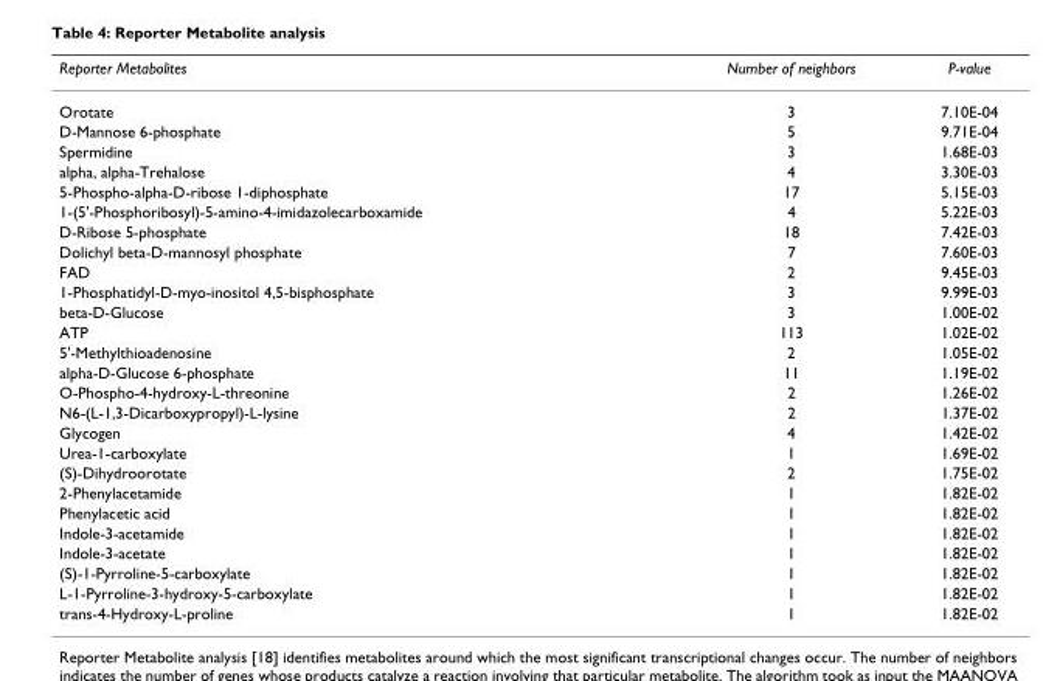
<table><thead><tr><td>Reporter Metabolites</td><td>Number of neighbors</td><td>P-value</td></tr></thead><tbody><tr><td>Orotate</td><td>3</td><td>7.10E-04</td></tr><tr><td>D-Mannose 6-phosphate</td><td>5</td><td>9.71E-04</td></tr><tr><td>Spermidine</td><td>3</td><td>1.68E-03</td></tr><tr><td>alpha, alpha-Trehalose</td><td>4</td><td>3.30E-03</td></tr><tr><td>5-Phospho-alpha-D-ribose 1-diphosphate</td><td>17</td><td>5.15E-03</td></tr><tr><td>1-(5&#x27;-Phosphoribosyl)-5-amino-4-imidazolecarboxamide</td><td>4</td><td>5.22E-03</td></tr><tr><td>D-Ribose 5-phosphate</td><td>18</td><td>7.42E-03</td></tr><tr><td>Dolichyl beta-D-mannosyl phosphate</td><td>7</td><td>7.60E-03</td></tr><tr><td>FAD</td><td>2</td><td>9.45E-03</td></tr><tr><td>1-Phosphatidyl-D-myo-inositol 4,5-bisphosphate</td><td>3</td><td>9.99E-03</td></tr><tr><td>beta-D-Glucose</td><td>3</td><td>1.00E-02</td></tr><tr><td>ATP</td><td>113</td><td>1.02E-02</td></tr><tr><td>5&#x27;-Methylthioadenosine</td><td>2</td><td>1.05E-02</td></tr><tr><td>alpha-D-Glucose 6-phosphate</td><td>11</td><td>1.19E-02</td></tr><tr><td>O-Phospho-4-hydroxy-L-threonine</td><td>2</td><td>1.26E-02</td></tr><tr><td>N6-(L-1,3-Dicarboxypropyl)-L-lysine</td><td>2</td><td>1.37E-02</td></tr><tr><td>Glycogen</td><td>4</td><td>1.42E-02</td></tr><tr><td>Urea-1-carboxylate</td><td>1</td><td>1.69E-02</td></tr><tr><td>(S)-Dihydroorotate</td><td>2</td><td>1.75E-02</td></tr><tr><td>2-Phenylacetamide</td><td>1</td><td>1.82E-02</td></tr><tr><td>Phenylacetic acid</td><td>1</td><td>1.82E-02</td></tr><tr><td>Indole-3-acetamide</td><td>1</td><td>1.82E-02</td></tr><tr><td>Indole-3-acetate</td><td>1</td><td>1.82E-02</td></tr><tr><td>(S)-1-Pyrroline-5-carboxylate</td><td>1</td><td>1.82E-02</td></tr><tr><td>L-1-Pyrroline-3-hydroxy-5-carboxylate</td><td>1</td><td>1.82E-02</td></tr><tr><td>trans-4-Hydroxy-L-proline</td><td>1</td><td>1.82E-02</td></tr></tbody></table>